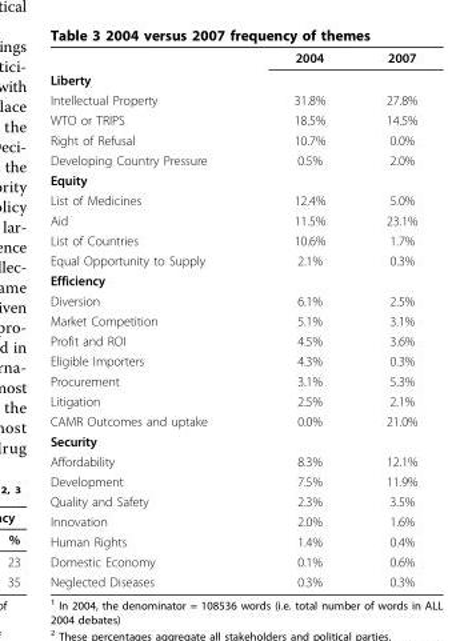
<table><thead><tr><td></td><td>2004</td><td>2007</td></tr></thead><tbody><tr><td colspan="3">Liberty</td></tr><tr><td>Intellectual Property</td><td>31.8%</td><td>27.8%</td></tr><tr><td>WTO or TRIPS</td><td>18.5%</td><td>14.5%</td></tr><tr><td>Right of Refusal</td><td>10.7%</td><td>0.0%</td></tr><tr><td>Developing Country Pressure</td><td>0.5%</td><td>2.0%</td></tr><tr><td colspan="3">Equity</td></tr><tr><td>List of Medicines</td><td>12.4%</td><td>5.0%</td></tr><tr><td>Aid</td><td>11.5%</td><td>23.1%</td></tr><tr><td>List of Countries</td><td>10.6%</td><td>1.7%</td></tr><tr><td>Equal Opportunity to Supply</td><td>2.1%</td><td>0.3%</td></tr><tr><td colspan="3">Efficiency</td></tr><tr><td>Diversion</td><td>6.1%</td><td>2.5%</td></tr><tr><td>Market Competition</td><td>5.1%</td><td>3.1%</td></tr><tr><td>Profit and ROI</td><td>4.5%</td><td>3.6%</td></tr><tr><td>Eligible Importers</td><td>4.3%</td><td>0.3%</td></tr><tr><td>Procurement</td><td>3.1%</td><td>5.3%</td></tr><tr><td>Litigation</td><td>2.5%</td><td>2.1%</td></tr><tr><td>CAMR Outcomes and uptake</td><td>0.0%</td><td>21.0%</td></tr><tr><td colspan="3">Security</td></tr><tr><td>Affordability</td><td>8.3%</td><td>12.1%</td></tr><tr><td>Development</td><td>7.5%</td><td>11.9%</td></tr><tr><td>Quality and Safety</td><td>2.3%</td><td>3.5%</td></tr><tr><td>Innovation</td><td>2.0%</td><td>1.6%</td></tr><tr><td>Human Rights</td><td>1.4%</td><td>0.4%</td></tr><tr><td>Domestic Economy</td><td>0.1%</td><td>0.6%</td></tr><tr><td>Neglected Diseases</td><td>0.3%</td><td>0.3%</td></tr></tbody></table>